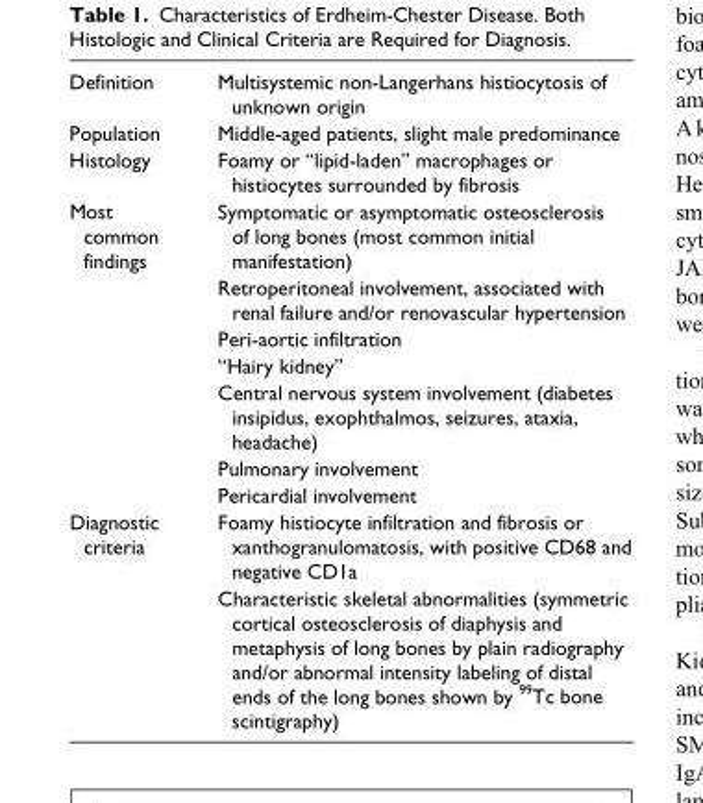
<table><tbody><tr><td>Definition</td><td>Multisystemic non-Langerhans histiocytosis of unknown origin</td></tr><tr><td>Population</td><td>Middle-aged patients, slight male predominance</td></tr><tr><td>Histology</td><td>Foamy or “lipid-laden” macrophages or histiocytes surrounded by fibrosis</td></tr><tr><td rowspan="7">Most common findings</td><td>Symptomatic or asymptomatic osteosclerosis of long bones (most common initial manifestation)</td></tr><tr><td>Retroperitoneal involvement, associated with renal failure and/or renovascular hypertension</td></tr><tr><td>Peri-aortic infiltration</td></tr><tr><td>“Hairy kidney”</td></tr><tr><td>Central nervous system involvement (diabetes insipidus, exophthalmos, seizures, ataxia, headache)</td></tr><tr><td>Pulmonary involvement</td></tr><tr><td>Pericardial involvement</td></tr><tr><td rowspan="2">Diagnostic criteria</td><td>Foamy histiocyte infiltration and fibrosis or xanthogranulomatosis, with positive CD68 and negative CD1a</td></tr><tr><td>Characteristic skeletal abnormalities (symmetric cortical osteosclerosis of diaphysis and metaphysis of long bones by plain radiography and/or abnormal intensity labeling of distal ends of the long bones shown by <sup>99</sup>Tc bone scintigraphy)</td></tr></tbody></table>